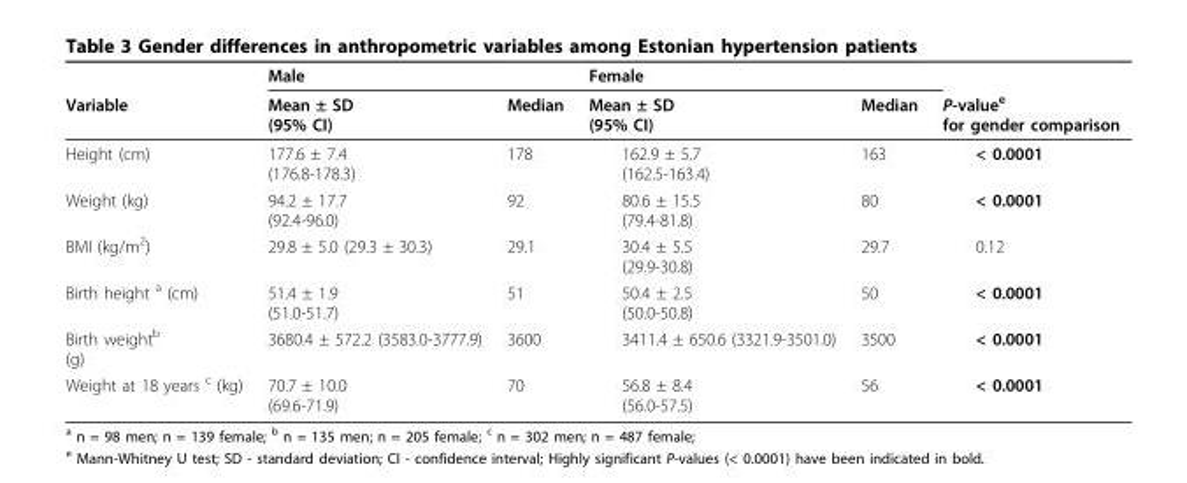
<table><thead><tr><td rowspan="2">Variable</td><td colspan="2">Male</td><td colspan="2">Female</td><td rowspan="2">P-value<sup>e</sup> for gender comparison</td></tr><tr><td>Mean ± SD (95% CI)</td><td>Median</td><td>Mean ± SD (95% CI)</td><td>Median</td></tr></thead><tbody><tr><td>Height (cm)</td><td>177.6 ± 7.4 (176.8-178.3)</td><td>178</td><td>162.9 ± 5.7 (162.5-163.4)</td><td>163</td><td>&lt; 0.0001</td></tr><tr><td>Weight (kg)</td><td>94.2 ± 17.7 (92.4-96.0)</td><td>92</td><td>80.6 ± 15.5 (79.4-81.8)</td><td>80</td><td>&lt; 0.0001</td></tr><tr><td>BMI (kg/m<sup>2</sup>)</td><td>29.8 ± 5.0 (29.3 ± 30.3)</td><td>29.1</td><td>30.4 ± 5.5 (29.9-30.8)</td><td>29.7</td><td>0.12</td></tr><tr><td>Birth height <sup>a</sup> (cm)</td><td>51.4 ± 1.9 (51.0-51.7)</td><td>51</td><td>50.4 ± 2.5 (50.0-50.8)</td><td>50</td><td>&lt; 0.0001</td></tr><tr><td>Birth weight<sup>b</sup> (g)</td><td>3680.4 ± 572.2 (3583.0-3777.9)</td><td>3600</td><td>3411.4 ± 650.6 (3321.9-3501.0)</td><td>3500</td><td>&lt; 0.0001</td></tr><tr><td>Weight at 18 years <sup>c</sup> (kg)</td><td>70.7 ± 10.0 (69.6-71.9)</td><td>70</td><td>56.8 ± 8.4 (56.0-57.5)</td><td>56</td><td>&lt; 0.0001</td></tr></tbody></table>